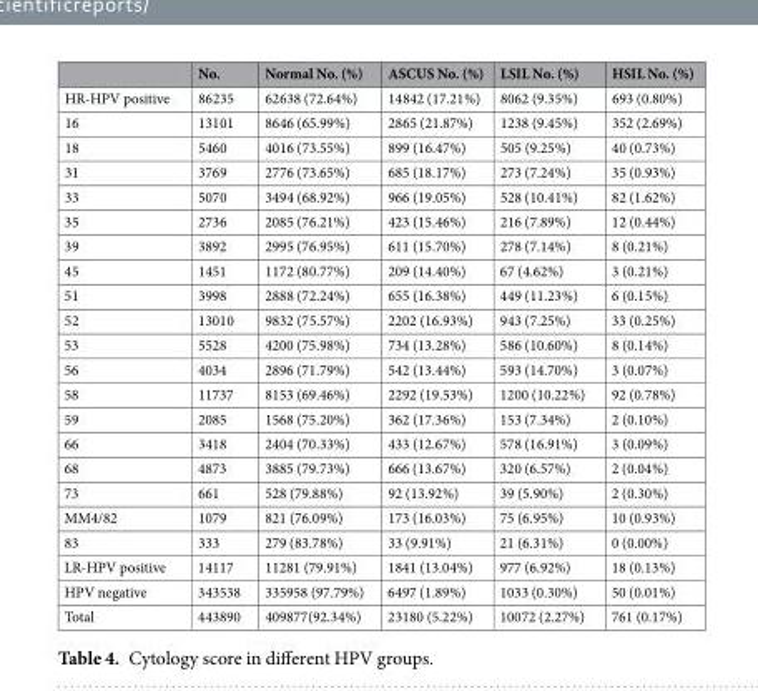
<table><thead><tr><td></td><td>No.</td><td>Normal No. (%)</td><td>ASCUS No. (%)</td><td>LSIL No. (%)</td><td>HSIL No. (%)</td></tr></thead><tbody><tr><td>HR-HPV positive</td><td>86235</td><td>62638 (72.64%)</td><td>14842 (17.21%)</td><td>8062 (9.35%)</td><td>693 (0.80%)</td></tr><tr><td>16</td><td>13101</td><td>8646 (65.99%)</td><td>2865 (21.87%)</td><td>1238 (9.45%)</td><td>352 (2.69%)</td></tr><tr><td>18</td><td>5460</td><td>4016 (73.55%)</td><td>899 (16.47%)</td><td>505 (9.25%)</td><td>40 (0.73%)</td></tr><tr><td>31</td><td>3769</td><td>2776 (73.65%)</td><td>685 (18.17%)</td><td>273 (7.24%)</td><td>35 (0.93%)</td></tr><tr><td>33</td><td>5070</td><td>3494 (68.92%)</td><td>966 (19.05%)</td><td>528 (10.41%)</td><td>82 (1.62%)</td></tr><tr><td>35</td><td>2736</td><td>2085 (76.21%)</td><td>423 (15.46%)</td><td>216 (7.89%)</td><td>12 (0.44%)</td></tr><tr><td>39</td><td>3892</td><td>2995 (76.95%)</td><td>611 (15.70%)</td><td>278 (7.14%)</td><td>8 (0.21%)</td></tr><tr><td>45</td><td>1451</td><td>1172 (80.77%)</td><td>209 (14.40%)</td><td>67 (4.62%)</td><td>3 (0.21%)</td></tr><tr><td>51</td><td>3998</td><td>2888 (72.24%)</td><td>655 (16.38%)</td><td>449 (11.23%)</td><td>6 (0.15%)</td></tr><tr><td>52</td><td>13010</td><td>9832 (75.57%)</td><td>2202 (16.93%)</td><td>943 (7.25%)</td><td>33 (0.25%)</td></tr><tr><td>53</td><td>5528</td><td>4200 (75.98%)</td><td>734 (13.28%)</td><td>586 (10.60%)</td><td>8 (0.14%)</td></tr><tr><td>56</td><td>4034</td><td>2896 (71.79%)</td><td>542 (13.44%)</td><td>593 (14.70%)</td><td>3 (0.07%)</td></tr><tr><td>58</td><td>11737</td><td>8153 (69.46%)</td><td>2292 (19.53%)</td><td>1200 (10.22%)</td><td>92 (0.78%)</td></tr><tr><td>59</td><td>2085</td><td>1568 (75.20%)</td><td>362 (17.36%)</td><td>153 (7.34%)</td><td>2 (0.10%)</td></tr><tr><td>66</td><td>3418</td><td>2404 (70.33%)</td><td>433 (12.67%)</td><td>578 (16.91%)</td><td>3 (0.09%)</td></tr><tr><td>68</td><td>4873</td><td>3885 (79.73%)</td><td>666 (13.67%)</td><td>320 (6.57%)</td><td>2 (0.04%)</td></tr><tr><td>73</td><td>661</td><td>528 (79.88%)</td><td>92 (13.92%)</td><td>39 (5.90%)</td><td>2 (0.30%)</td></tr><tr><td>MM4/82</td><td>1079</td><td>821 (76.09%)</td><td>173 (16.03%)</td><td>75 (6.95%)</td><td>10 (0.93%)</td></tr><tr><td>83</td><td>333</td><td>279 (83.78%)</td><td>33 (9.91%)</td><td>21 (6.31%)</td><td>0 (0.00%)</td></tr><tr><td>LR-HPV positive</td><td>14117</td><td>11281 (79.91%)</td><td>1841 (13.04%)</td><td>977 (6.92%)</td><td>18 (0.13%)</td></tr><tr><td>HPV negative</td><td>343538</td><td>335958 (97.79%)</td><td>6497 (1.89%)</td><td>1033 (0.30%)</td><td>50 (0.01%)</td></tr><tr><td>Total</td><td>443890</td><td>409877(92.34%)</td><td>23180 (5.22%)</td><td>10072 (2.27%)</td><td>761 (0.17%)</td></tr></tbody></table>